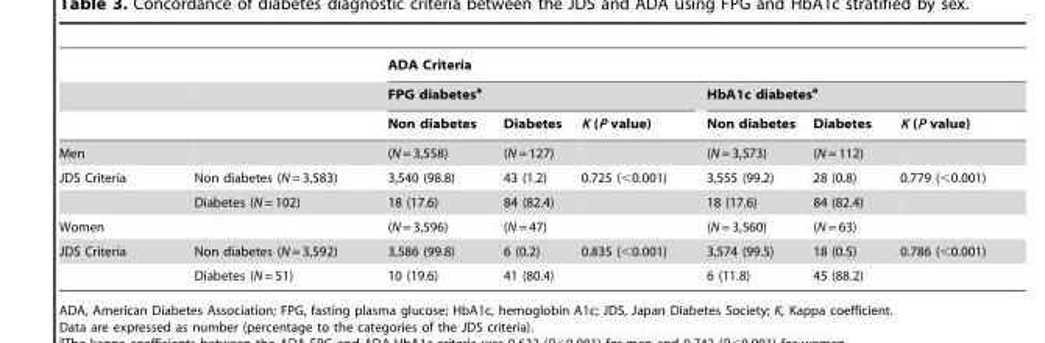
<table><thead><tr><td rowspan="3"></td><td rowspan="3"></td><td colspan="6">ADA Criteria</td></tr><tr><td colspan="3">FPG diabetes<sup>a</sup></td><td colspan="3">HbA1c diabetes<sup>a</sup></td></tr><tr><td>Non diabetes</td><td>Diabetes</td><td>K (P value)</td><td>Non diabetes</td><td>Diabetes</td><td>K (P value)</td></tr></thead><tbody><tr><td>Men</td><td></td><td>(N = 3,558)</td><td>(N = 127)</td><td></td><td>(N = 3,573)</td><td>(N = 112)</td><td></td></tr><tr><td rowspan="2">JDS Criteria</td><td>Non diabetes (N = 3,583)</td><td>3,540 (98.8)</td><td>43 (1.2)</td><td>0.725 (&lt;0.001)</td><td>3,555 (99.2)</td><td>28 (0.8)</td><td>0.779 (&lt;0.001)</td></tr><tr><td>Diabetes (N = 102)</td><td>18 (17.6)</td><td>84 (82.4)</td><td></td><td>18 (17.6)</td><td>84 (82.4)</td><td></td></tr><tr><td>Women</td><td></td><td>(N = 3,596)</td><td>(N = 47)</td><td></td><td>(N = 3,560)</td><td>(N = 63)</td><td></td></tr><tr><td rowspan="2">JDS Criteria</td><td>Non diabetes (N = 3,592)</td><td>3,586 (99.8)</td><td>6 (0.2)</td><td>0.835 (&lt;0.001)</td><td>3,574 (99.5)</td><td>18 (0.5)</td><td>0.786 (&lt;0.001)</td></tr><tr><td>Diabetes (N = 51)</td><td>10 (19.6)</td><td>41 (80.4)</td><td></td><td>6 (11.8)</td><td>45 (88.2)</td><td></td></tr></tbody></table>